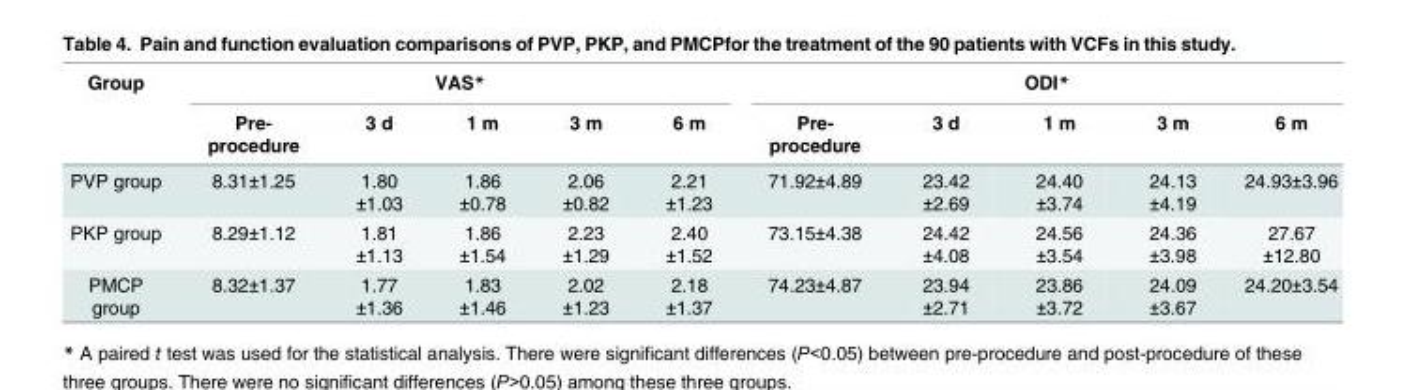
<table><thead><tr><td rowspan="2">Group</td><td colspan="5">VAS*</td><td colspan="5">ODI*</td></tr><tr><td>Pre- procedure</td><td>3 d</td><td>1 m</td><td>3 m</td><td>6 m</td><td>Pre- procedure</td><td>3 d</td><td>1 m</td><td>3 m</td><td>6 m</td></tr></thead><tbody><tr><td>PVP group</td><td>8.31±1.25</td><td>1.80 ±1.03</td><td>1.86 ±0.78</td><td>2.06 ±0.82</td><td>2.21 ±1.23</td><td>71.92±4.89</td><td>23.42 ±2.69</td><td>24.40 ±3.74</td><td>24.13 ±4.19</td><td>24.93±3.96</td></tr><tr><td>PKP group</td><td>8.29±1.12</td><td>1.81 ±1.13</td><td>1.86 ±1.54</td><td>2.23 ±1.29</td><td>2.40 ±1.52</td><td>73.15±4.38</td><td>24.42 ±4.08</td><td>24.56 ±3.54</td><td>24.36 ±3.98</td><td>27.67 ±12.80</td></tr><tr><td>PMCP group</td><td>8.32±1.37</td><td>1.77 ±1.36</td><td>1.83 ±1.46</td><td>2.02 ±1.23</td><td>2.18 ±1.37</td><td>74.23±4.87</td><td>23.94 ±2.71</td><td>23.86 ±3.72</td><td>24.09 ±3.67</td><td>24.20±3.54</td></tr></tbody></table>